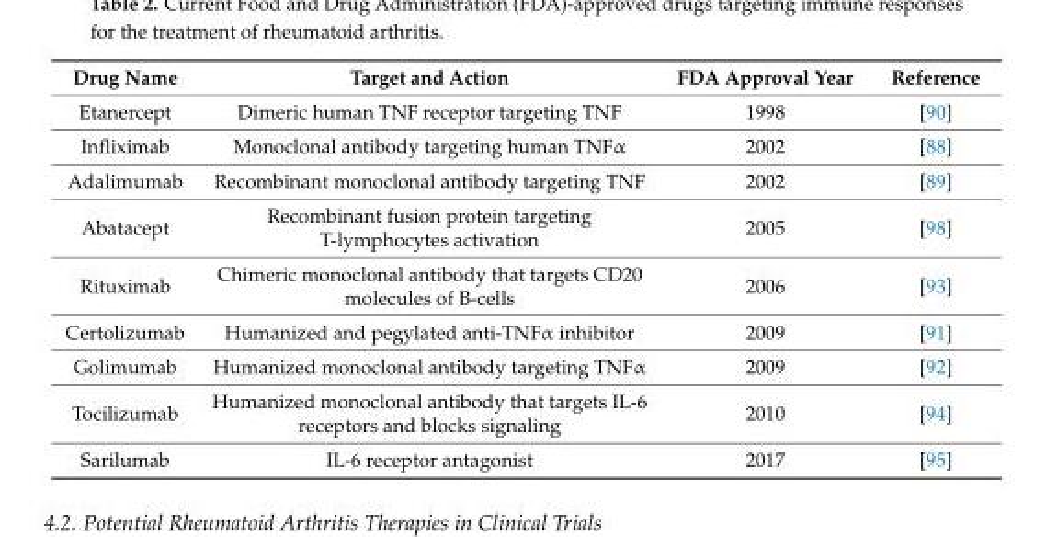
<table><thead><tr><td>Drug Name</td><td>Target and Action</td><td>FDA Approval Year</td><td>Reference</td></tr></thead><tbody><tr><td>Etanercept</td><td>Dimeric human TNF receptor targeting TNF</td><td>1998</td><td>[90]</td></tr><tr><td>Infliximab</td><td>Monoclonal antibody targeting human TNFα</td><td>2002</td><td>[88]</td></tr><tr><td>Adalimumab</td><td>Recombinant monoclonal antibody targeting TNF</td><td>2002</td><td>[89]</td></tr><tr><td>Abatacept</td><td>Recombinant fusion protein targeting T-lymphocytes activation</td><td>2005</td><td>[98]</td></tr><tr><td>Rituximab</td><td>Chimeric monoclonal antibody that targets CD20 molecules of B-cells</td><td>2006</td><td>[93]</td></tr><tr><td>Certolizumab</td><td>Humanized and pegylated anti-TNFα inhibitor</td><td>2009</td><td>[91]</td></tr><tr><td>Golimumab</td><td>Humanized monoclonal antibody targeting TNFα</td><td>2009</td><td>[92]</td></tr><tr><td>Tocilizumab</td><td>Humanized monoclonal antibody that targets IL-6 receptors and blocks signaling</td><td>2010</td><td>[94]</td></tr><tr><td>Sarilumab</td><td>IL-6 receptor antagonist</td><td>2017</td><td>[95]</td></tr></tbody></table>